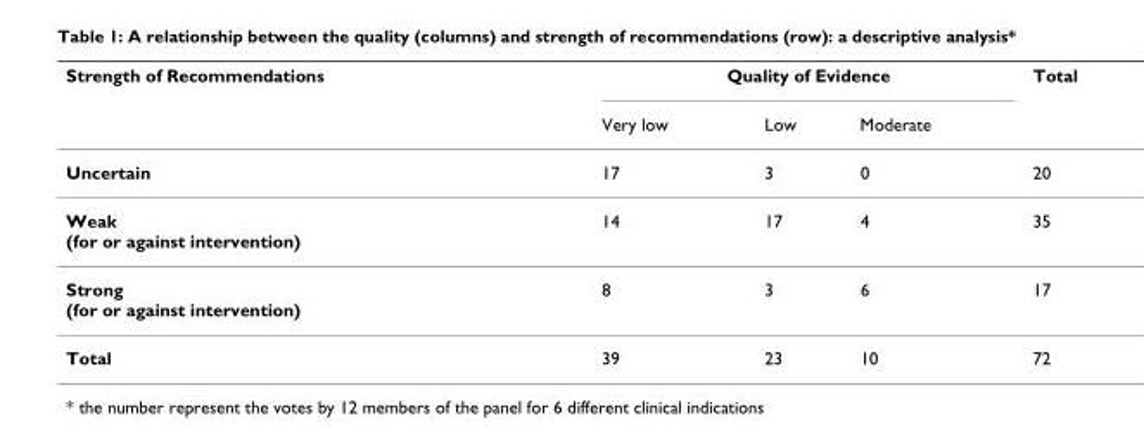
<table><thead><tr><td rowspan="2">Strength of Recommendations</td><td colspan="3">Quality of Evidence</td><td rowspan="2">Total</td></tr><tr><td>Very low</td><td>Low</td><td>Moderate</td></tr></thead><tbody><tr><td>Uncertain</td><td>17</td><td>3</td><td>0</td><td>20</td></tr><tr><td>Weak (for or against intervention)</td><td>14</td><td>17</td><td>4</td><td>35</td></tr><tr><td>Strong (for or against intervention)</td><td>8</td><td>3</td><td>6</td><td>17</td></tr><tr><td>Total</td><td>39</td><td>23</td><td>10</td><td>72</td></tr></tbody></table>